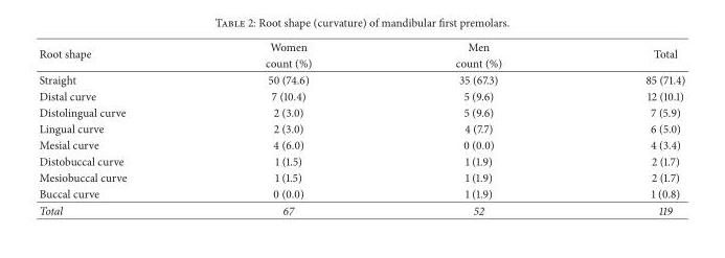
<table><thead><tr><td rowspan="2">Root shape</td><td rowspan="2">Women count (%)</td><td rowspan="2">Men count (%)</td><td rowspan="2">Total</td></tr><tr></tr></thead><tbody><tr><td>Straight</td><td>50 (74.6)</td><td>35 (67.3)</td><td>85 (71.4)</td></tr><tr><td>Distal curve</td><td>7 (10.4)</td><td>5 (9.6)</td><td>12 (10.1)</td></tr><tr><td>Distolingual curve</td><td>2 (3.0)</td><td>5 (9.6)</td><td>7 (5.9)</td></tr><tr><td>Lingual curve</td><td>2 (3.0)</td><td>4 (7.7)</td><td>6 (5.0)</td></tr><tr><td>Mesial curve</td><td>4 (6.0)</td><td>0 (0.0)</td><td>4 (3.4)</td></tr><tr><td>Distobuccal curve</td><td>1 (1.5)</td><td>1 (1.9)</td><td>2 (1.7)</td></tr><tr><td>Mesiobuccal curve</td><td>1 (1.5)</td><td>1 (1.9)</td><td>2 (1.7)</td></tr><tr><td>Buccal curve</td><td>0 (0.0)</td><td>1 (1.9)</td><td>1 (0.8)</td></tr><tr><td>Total</td><td>67</td><td>52</td><td>119</td></tr></tbody></table>